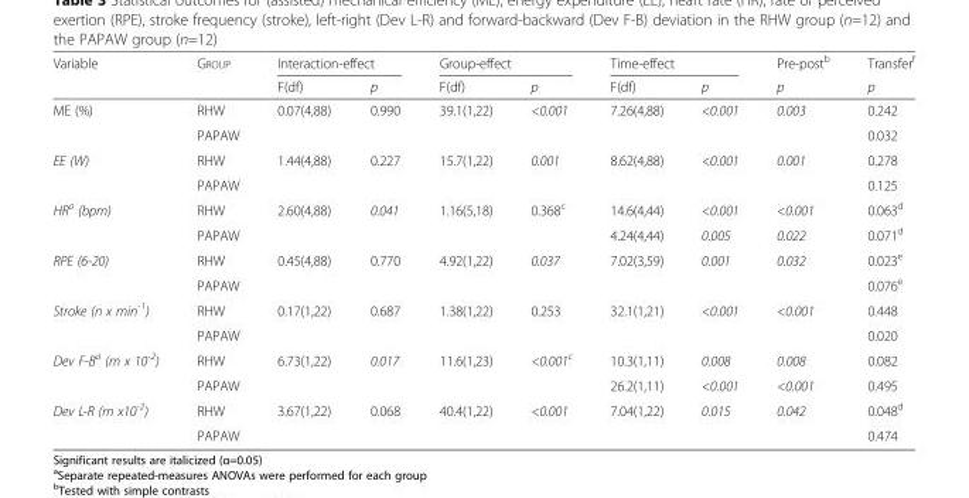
<table><thead><tr><td rowspan="2">Variable</td><td rowspan="2">GROUP</td><td colspan="2">Interaction-effect</td><td colspan="2">Group-effect</td><td colspan="2">Time-effect</td><td rowspan="2">Pre-post<sup>b</sup> p</td><td rowspan="2">Transfer<sup>f</sup> p</td></tr><tr><td>F(df)</td><td>p</td><td>F(df)</td><td>p</td><td>F(df)</td><td>p</td></tr></thead><tbody><tr><td rowspan="2">ME (%)</td><td>RHW</td><td rowspan="2">0.07(4,88)</td><td rowspan="2">0.990</td><td rowspan="2">39.1(1,22)</td><td rowspan="2">&lt;0.001</td><td rowspan="2">7.26(4,88)</td><td rowspan="2">&lt;0.001</td><td rowspan="2">0.003</td><td>0.242</td></tr><tr><td>PAPAW</td><td>0.032</td></tr><tr><td rowspan="2">EE (W)</td><td>RHW</td><td rowspan="2">1.44(4,88)</td><td rowspan="2">0.227</td><td rowspan="2">15.7(1,22)</td><td rowspan="2">0.001</td><td rowspan="2">8.62(4,88)</td><td rowspan="2">&lt;0.001</td><td rowspan="2">0.001</td><td>0.278</td></tr><tr><td>PAPAW</td><td>0.125</td></tr><tr><td rowspan="2">HR<sup>a</sup> (bpm)</td><td>RHW</td><td rowspan="2">2.60(4,88)</td><td rowspan="2">0.041</td><td rowspan="2">1.16(5,18)</td><td rowspan="2">0.368<sup>c</sup></td><td>14.6(4,44)</td><td>&lt;0.001</td><td>&lt;0.001</td><td>0.063<sup>d</sup></td></tr><tr><td>PAPAW</td><td>4.24(4,44)</td><td>0.005</td><td>0.022</td><td>0.071<sup>d</sup></td></tr><tr><td rowspan="2">RPE (6-20)</td><td>RHW</td><td rowspan="2">0.45(4,88)</td><td rowspan="2">0.770</td><td rowspan="2">4.92(1,22)</td><td rowspan="2">0.037</td><td rowspan="2">7.02(3,59)</td><td rowspan="2">0.001</td><td rowspan="2">0.032</td><td>0.023<sup>e</sup></td></tr><tr><td>PAPAW</td><td>0.076<sup>e</sup></td></tr><tr><td rowspan="2">Stroke (n x min<sup>-1</sup>)</td><td>RHW</td><td rowspan="2">0.17(1,22)</td><td rowspan="2">0.687</td><td rowspan="2">1.38(1,22)</td><td rowspan="2">0.253</td><td rowspan="2">32.1(1,21)</td><td rowspan="2">&lt;0.001</td><td rowspan="2">&lt;0.001</td><td>0.448</td></tr><tr><td>PAPAW</td><td>0.020</td></tr><tr><td rowspan="2">Dev F-B<sup>a</sup> (m x 10<sup>-2</sup>)</td><td>RHW</td><td rowspan="2">6.73(1,22)</td><td rowspan="2">0.017</td><td rowspan="2">11.6(1,23)</td><td rowspan="2">&lt;0.001<sup>c</sup></td><td>10.3(1,11)</td><td>0.008</td><td>0.008</td><td>0.082</td></tr><tr><td>PAPAW</td><td>26.2(1,11)</td><td>&lt;0.001</td><td>&lt;0.001</td><td>0.495</td></tr><tr><td rowspan="2">Dev L-R (m x10<sup>-2</sup>)</td><td>RHW</td><td rowspan="2">3.67(1,22)</td><td rowspan="2">0.068</td><td rowspan="2">40.4(1,22)</td><td rowspan="2">&lt;0.001</td><td rowspan="2">7.04(1,22)</td><td rowspan="2">0.015</td><td rowspan="2">0.042</td><td>0.048<sup>d</sup></td></tr><tr><td>PAPAW</td><td>0.474</td></tr></tbody></table>